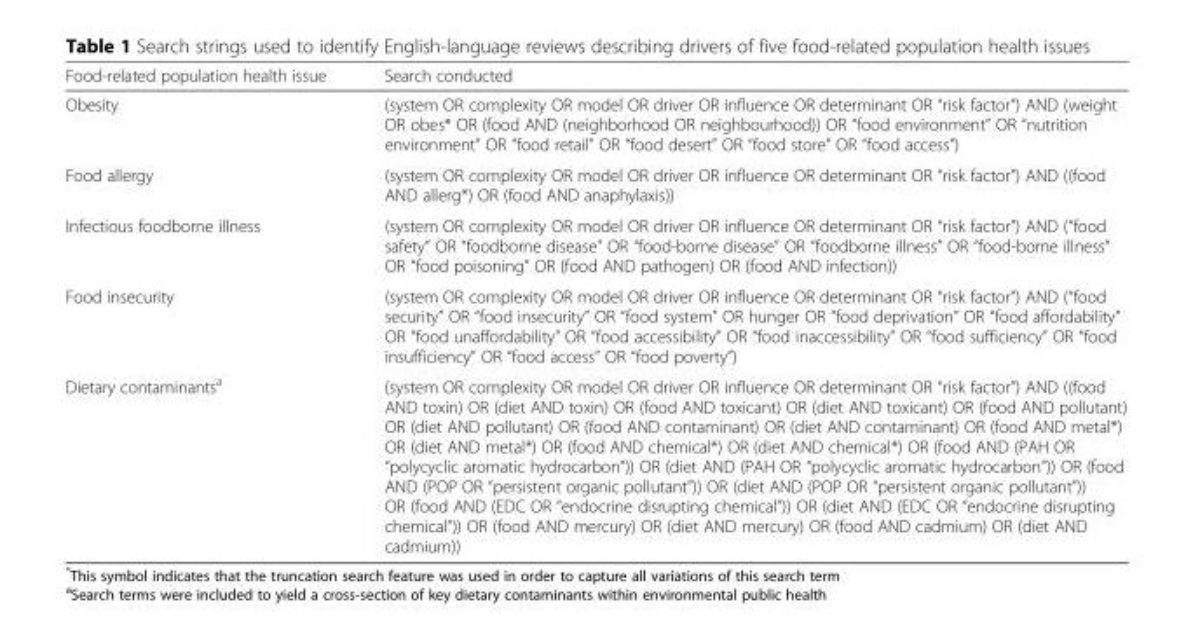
<table><thead><tr><td>Food-related population health issue</td><td>Search conducted</td></tr></thead><tbody><tr><td>Obesity</td><td>(system OR complexity OR model OR driver OR influence OR determinant OR “risk factor”) AND (weight OR obes* OR (food AND (neighborhood OR neighbourhood)) OR “food environment” OR “nutrition environment” OR “food retail” OR “food desert” OR “food store” OR “food access”)</td></tr><tr><td>Food allergy</td><td>(system OR complexity OR model OR driver OR influence OR determinant OR “risk factor”) AND ((food AND allerg*) OR (food AND anaphylaxis))</td></tr><tr><td>Infectious foodborne illness</td><td>(system OR complexity OR model OR driver OR influence OR determinant OR “risk factor”) AND (“food safety” OR “foodborne disease” OR “food-borne disease” OR “foodborne illness” OR “food-borne illness” OR “food poisoning” OR (food AND pathogen) OR (food AND infection))</td></tr><tr><td>Food insecurity</td><td>(system OR complexity OR model OR driver OR influence OR determinant OR “risk factor”) AND (“food security” OR “food insecurity” OR “food system” OR hunger OR “food deprivation” OR “food affordability” OR “food unaffordability” OR “food accessibility” OR “food inaccessibility” OR “food sufficiency” OR “food insufficiency” OR “food access” OR “food poverty”)</td></tr><tr><td>Dietary contaminants<sup>a</sup></td><td>(system OR complexity OR model OR driver OR influence OR determinant OR “risk factor”) AND ((food AND toxin) OR (diet AND toxin) OR (food AND toxicant) OR (diet AND toxicant) OR (food AND pollutant) OR (diet AND pollutant) OR (food AND contaminant) OR (diet AND contaminant) OR (food AND metal*) OR (diet AND metal*) OR (food AND chemical*) OR (diet AND chemical*) OR (food AND (PAH OR “polycyclic aromatic hydrocarbon”)) OR (diet AND (PAH OR “polycyclic aromatic hydrocarbon”)) OR (food AND (POP OR “persistent organic pollutant”)) OR (diet AND (POP OR “persistent organic pollutant”)) OR (food AND (EDC OR “endocrine disrupting chemical”)) OR (diet AND (EDC OR “endocrine disrupting chemical”)) OR (food AND mercury) OR (diet AND mercury) OR (food AND cadmium) OR (diet AND cadmium))</td></tr></tbody></table>